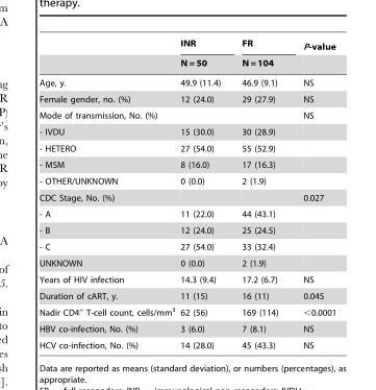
<table><thead><tr><td rowspan="2"></td><td rowspan="2">INR N = 50</td><td rowspan="2">FR N = 104</td><td rowspan="2">P-value</td></tr><tr></tr></thead><tbody><tr><td>Age, y.</td><td>49.9 (11.4)</td><td>46.9 (9.1)</td><td>NS</td></tr><tr><td>Female gender, no. (%)</td><td>12 (24.0)</td><td>29 (27.9)</td><td>NS</td></tr><tr><td>Mode of transmission, No. (%)</td><td></td><td></td><td>NS</td></tr><tr><td>- IVDU</td><td>15 (30.0)</td><td>30 (28.9)</td><td></td></tr><tr><td>- HETERO</td><td>27 (54.0)</td><td>55 (52.9)</td><td></td></tr><tr><td>- MSM</td><td>8 (16.0)</td><td>17 (16.3)</td><td></td></tr><tr><td>- OTHER/UNKNOWN</td><td>0 (0.0)</td><td>2 (1.9)</td><td></td></tr><tr><td>CDC Stage, No. (%)</td><td></td><td></td><td>0.027</td></tr><tr><td>- A</td><td>11 (22.0)</td><td>44 (43.1)</td><td></td></tr><tr><td>- B</td><td>12 (24.0)</td><td>25 (24.5)</td><td></td></tr><tr><td>- C</td><td>27 (54.0)</td><td>33 (32.4)</td><td></td></tr><tr><td>UNKNOWN</td><td>0 (0.0)</td><td>2 (1.9)</td><td></td></tr><tr><td>Years of HIV infection</td><td>14.3 (9.4)</td><td>17.2 (6.7)</td><td>NS</td></tr><tr><td>Duration of cART, y.</td><td>11 (15)</td><td>16 (11)</td><td>0.045</td></tr><tr><td>Nadir CD4<sup>+</sup> T-cell count, cells/mm<sup>3</sup></td><td>62 (56)</td><td>169 (114)</td><td>&lt;0.0001</td></tr><tr><td>HBV co-infection, No. (%)</td><td>3 (6.0)</td><td>7 (8.1)</td><td>NS</td></tr><tr><td>HCV co-infection, No. (%)</td><td>14 (28.0)</td><td>45 (43.3)</td><td>NS</td></tr></tbody></table>